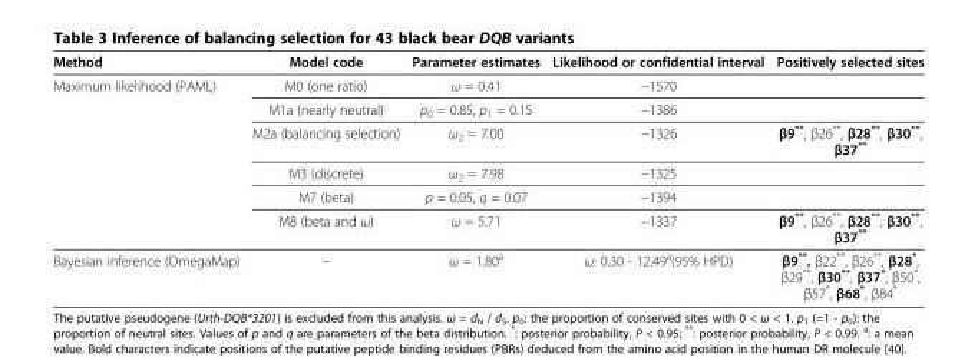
<table><thead><tr><td>Method</td><td>Model code</td><td>Parameter estimates</td><td>Likelihood or confidential interval</td><td>Positively selected sites</td></tr></thead><tbody><tr><td rowspan="6">Maximum likelihood (PAML)</td><td>M0 (one ratio)</td><td>ω = 0.41</td><td>−1570</td><td></td></tr><tr><td>M1a (nearly neutral)</td><td>p<sub>0</sub> = 0.85, p<sub>1</sub> = 0.15</td><td>−1386</td><td></td></tr><tr><td>M2a (balancing selection)</td><td>ω<sub>2</sub> = 7.00</td><td>−1326</td><td>β9**, β26**, β28**, β30**, β37**</td></tr><tr><td>M3 (discrete)</td><td>ω<sub>2</sub> = 7.98</td><td>−1325</td><td></td></tr><tr><td>M7 (beta)</td><td>p = 0.05, q = 0.07</td><td>−1394</td><td></td></tr><tr><td>M8 (beta and ω)</td><td>ω = 5.71</td><td>−1337</td><td>β9**, β26**, β28**, β30**, β37**</td></tr><tr><td>Bayesian inference (OmegaMap)</td><td>−</td><td>ω = 1.80<sup>a</sup></td><td>ω: 0.30 - 12.49<sup>a</sup>(95% HPD)</td><td>β9**, β22**, β26**, β28*, β29**, β30**, β37*, β50*, β57*, β68*, β84*</td></tr></tbody></table>